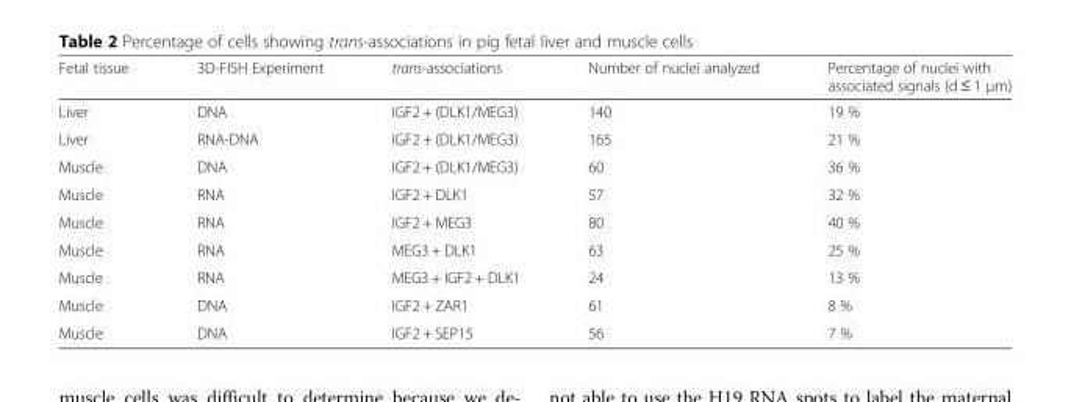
<table><thead><tr><td>Fetal tissue</td><td>3D-FISH Experiment</td><td>trans-associations</td><td>Number of nuclei analyzed</td><td>Percentage of nuclei with associated signals (d ≤ 1 μm)</td></tr></thead><tbody><tr><td>Liver</td><td>DNA</td><td>IGF2 + (DLK1/MEG3)</td><td>140</td><td>19 %</td></tr><tr><td>Liver</td><td>RNA-DNA</td><td>IGF2 + (DLK1/MEG3)</td><td>165</td><td>21 %</td></tr><tr><td>Muscle</td><td>DNA</td><td>IGF2 + (DLK1/MEG3)</td><td>60</td><td>36 %</td></tr><tr><td>Muscle</td><td>RNA</td><td>IGF2 + DLK1</td><td>57</td><td>32 %</td></tr><tr><td>Muscle</td><td>RNA</td><td>IGF2 + MEG3</td><td>80</td><td>40 %</td></tr><tr><td>Muscle</td><td>RNA</td><td>MEG3 + DLK1</td><td>63</td><td>25 %</td></tr><tr><td>Muscle</td><td>RNA</td><td>MEG3 + IGF2 + DLK1</td><td>24</td><td>13 %</td></tr><tr><td>Muscle</td><td>DNA</td><td>IGF2 + ZAR1</td><td>61</td><td>8 %</td></tr><tr><td>Muscle</td><td>DNA</td><td>IGF2 + SEP15</td><td>56</td><td>7 %</td></tr></tbody></table>